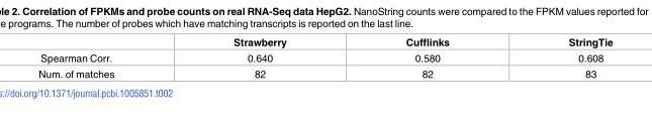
<table><thead><tr><td></td><td>Strawberry</td><td>Cufflinks</td><td>StringTie</td></tr></thead><tbody><tr><td>Spearman Corr.</td><td>0.640</td><td>0.580</td><td>0.608</td></tr><tr><td>Num. of matches</td><td>82</td><td>82</td><td>83</td></tr></tbody></table>